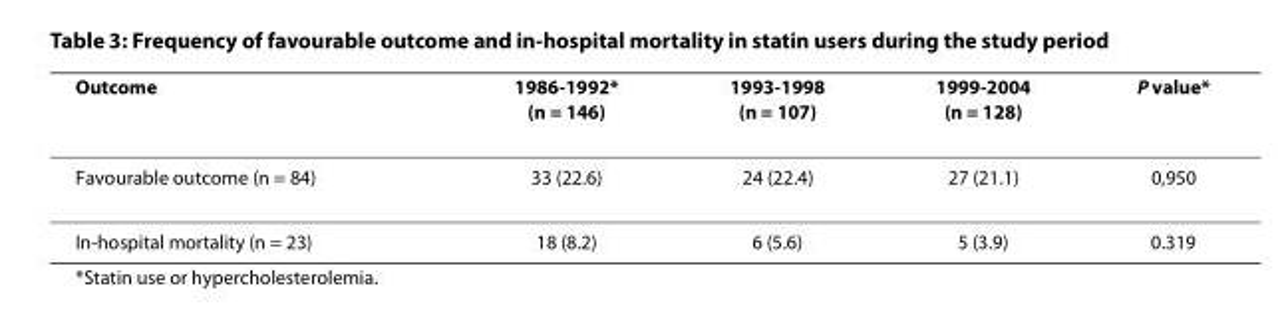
<table><thead><tr><td>Outcome</td><td>1986-1992* (n = 146)</td><td>1993-1998 (n = 107)</td><td>1999-2004 (n = 128)</td><td>P value*</td></tr></thead><tbody><tr><td>Favourable outcome (n = 84)</td><td>33 (22.6)</td><td>24 (22.4)</td><td>27 (21.1)</td><td>0,950</td></tr><tr><td>In-hospital mortality (n = 23)</td><td>18 (8.2)</td><td>6 (5.6)</td><td>5 (3.9)</td><td>0.319</td></tr></tbody></table>